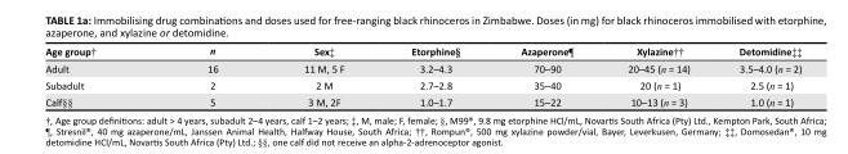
<table><thead><tr><td>Age group†</td><td>n</td><td>Sex‡</td><td>Etorphine§</td><td>Azaperone¶</td><td>Xylazine††</td><td>Detomidine‡‡</td></tr></thead><tbody><tr><td>Adult</td><td>16</td><td>11 M, 5 F</td><td>3.2–4.3</td><td>70–90</td><td>20–45 (n = 14)</td><td>3.5–4.0 (n = 2)</td></tr><tr><td>Subadult</td><td>2</td><td>2 M</td><td>2.7–2.8</td><td>35–40</td><td>20 (n = 1)</td><td>2.5 (n = 1)</td></tr><tr><td>Calf§§</td><td>5</td><td>3 M, 2F</td><td>1.0–1.7</td><td>15–22</td><td>10–13 (n = 3)</td><td>1.0 (n = 1)</td></tr></tbody></table>